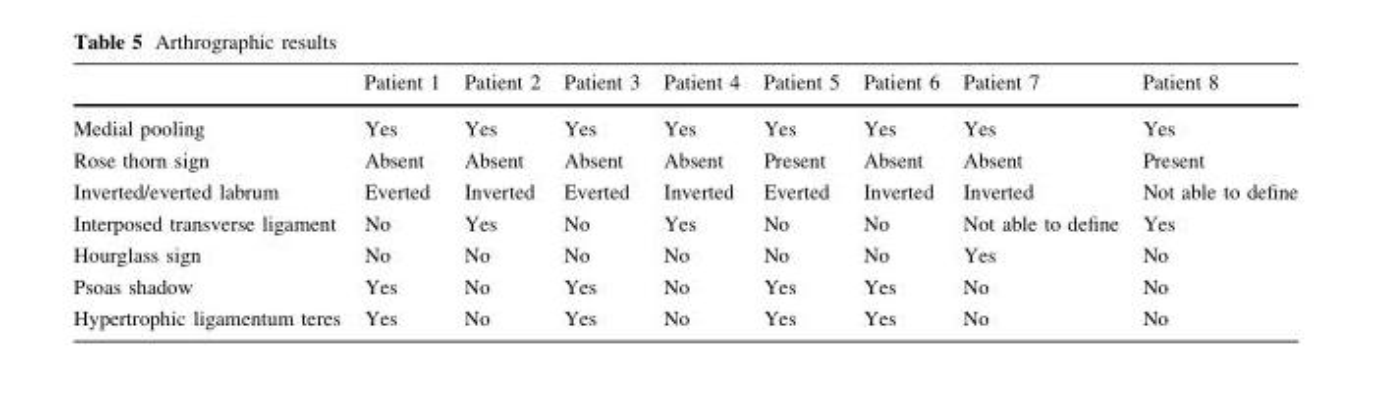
<table><thead><tr><td></td><td>Patient 1</td><td>Patient 2</td><td>Patient 3</td><td>Patient 4</td><td>Patient 5</td><td>Patient 6</td><td>Patient 7</td><td>Patient 8</td></tr></thead><tbody><tr><td>Medial pooling</td><td>Yes</td><td>Yes</td><td>Yes</td><td>Yes</td><td>Yes</td><td>Yes</td><td>Yes</td><td>Yes</td></tr><tr><td>Rose thorn sign</td><td>Absent</td><td>Absent</td><td>Absent</td><td>Absent</td><td>Present</td><td>Absent</td><td>Absent</td><td>Present</td></tr><tr><td>Inverted/everted labrum</td><td>Everted</td><td>Inverted</td><td>Everted</td><td>Inverted</td><td>Everted</td><td>Inverted</td><td>Inverted</td><td>Not able to define</td></tr><tr><td>Interposed transverse ligament</td><td>No</td><td>Yes</td><td>No</td><td>Yes</td><td>No</td><td>No</td><td>Not able to define</td><td>Yes</td></tr><tr><td>Hourglass sign</td><td>No</td><td>No</td><td>No</td><td>No</td><td>No</td><td>No</td><td>Yes</td><td>No</td></tr><tr><td>Psoas shadow</td><td>Yes</td><td>No</td><td>Yes</td><td>No</td><td>Yes</td><td>Yes</td><td>No</td><td>No</td></tr><tr><td>Hypertrophic ligamentum teres</td><td>Yes</td><td>No</td><td>Yes</td><td>No</td><td>Yes</td><td>Yes</td><td>No</td><td>No</td></tr></tbody></table>